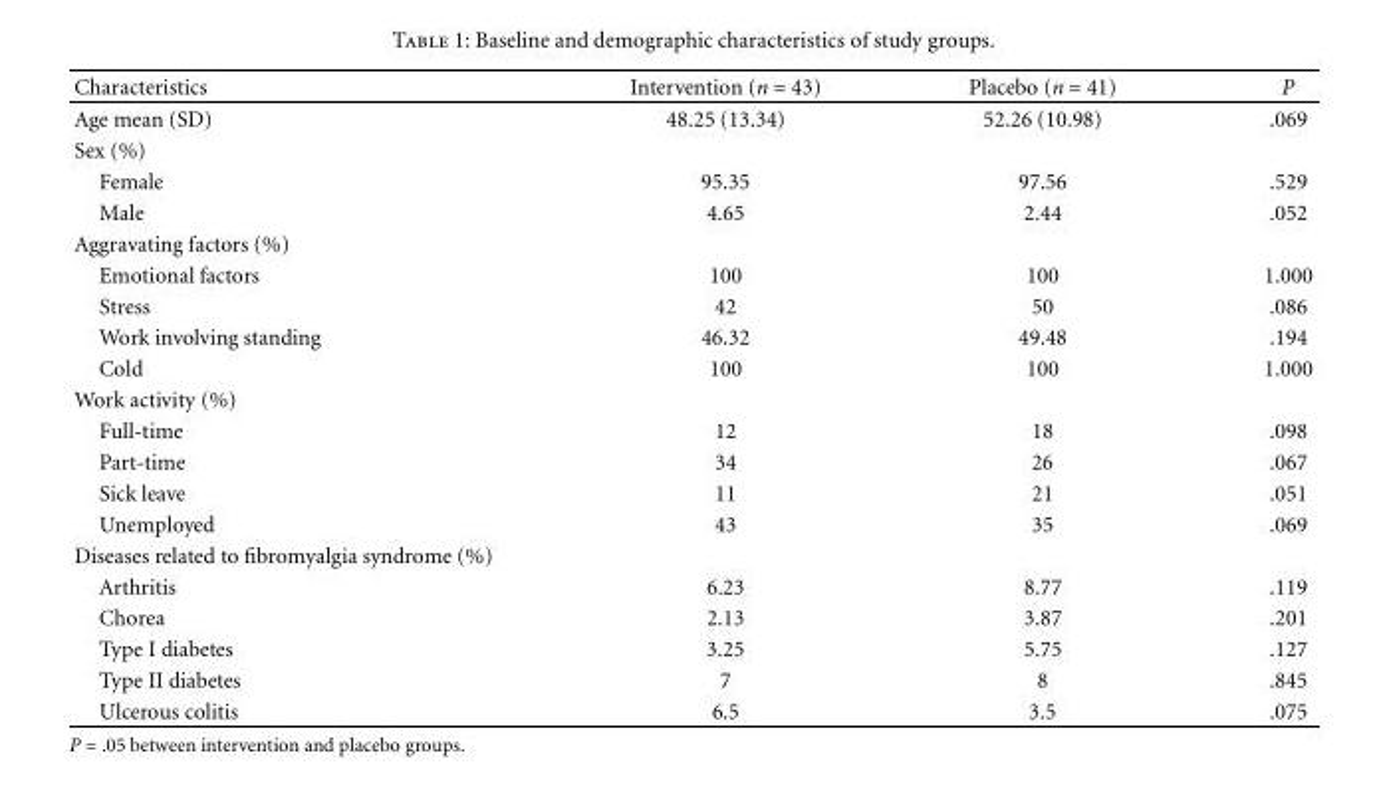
<table><thead><tr><td>Characteristics</td><td>Intervention (n = 43)</td><td>Placebo (n = 41)</td><td>P</td></tr></thead><tbody><tr><td>Age mean (SD)</td><td>48.25 (13.34)</td><td>52.26 (10.98)</td><td>.069</td></tr><tr><td colspan="4">Sex (%)</td></tr><tr><td>Female</td><td>95.35</td><td>97.56</td><td>.529</td></tr><tr><td>Male</td><td>4.65</td><td>2.44</td><td>.052</td></tr><tr><td colspan="4">Aggravating factors (%)</td></tr><tr><td>Emotional factors</td><td>100</td><td>100</td><td>1.000</td></tr><tr><td>Stress</td><td>42</td><td>50</td><td>.086</td></tr><tr><td>Work involving standing</td><td>46.32</td><td>49.48</td><td>.194</td></tr><tr><td>Cold</td><td>100</td><td>100</td><td>1.000</td></tr><tr><td colspan="4">Work activity (%)</td></tr><tr><td>Full-time</td><td>12</td><td>18</td><td>.098</td></tr><tr><td>Part-time</td><td>34</td><td>26</td><td>.067</td></tr><tr><td>Sick leave</td><td>11</td><td>21</td><td>.051</td></tr><tr><td>Unemployed</td><td>43</td><td>35</td><td>.069</td></tr><tr><td colspan="4">Diseases related to fibromyalgia syndrome (%)</td></tr><tr><td>Arthritis</td><td>6.23</td><td>8.77</td><td>.119</td></tr><tr><td>Chorea</td><td>2.13</td><td>3.87</td><td>.201</td></tr><tr><td>Type I diabetes</td><td>3.25</td><td>5.75</td><td>.127</td></tr><tr><td>Type II diabetes</td><td>7</td><td>8</td><td>.845</td></tr><tr><td>Ulcerous colitis</td><td>6.5</td><td>3.5</td><td>.075</td></tr></tbody></table>